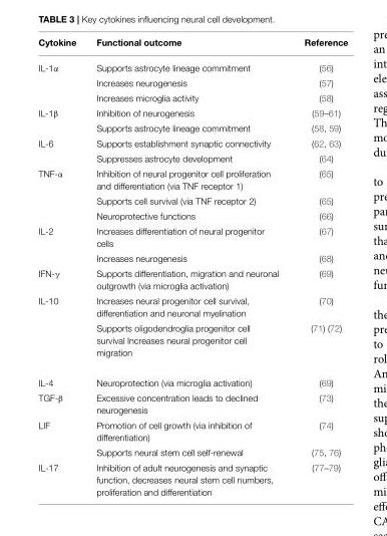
<table><thead><tr><td>Cytokine</td><td>Functional outcome</td><td>Reference</td></tr></thead><tbody><tr><td rowspan="3">IL-1α</td><td>Supports astrocyte lineage commitment</td><td>(56)</td></tr><tr><td>Increases neurogenesis</td><td>(57)</td></tr><tr><td>Increases microglia activity</td><td>(58)</td></tr><tr><td rowspan="2">IL-1β</td><td>Inhibition of neurogenesis</td><td>(59–61)</td></tr><tr><td>Supports astrocyte lineage commitment</td><td>(58, 59)</td></tr><tr><td rowspan="2">IL-6</td><td>Supports establishment synaptic connectivity</td><td>(62, 63)</td></tr><tr><td>Suppresses astrocyte development</td><td>(64)</td></tr><tr><td rowspan="3">TNF-α</td><td>Inhibition of neural progenitor cell proliferation and differentiation (via TNF receptor 1)</td><td>(65)</td></tr><tr><td>Supports cell survival (via TNF receptor 2)</td><td>(65)</td></tr><tr><td>Neuroprotective functions</td><td>(66)</td></tr><tr><td rowspan="2">IL-2</td><td>Increases differentiation of neural progenitor cells</td><td>(67)</td></tr><tr><td>Increases neurogenesis</td><td>(68)</td></tr><tr><td>IFN-γ</td><td>Supports differentiation, migration and neuronal outgrowth (via microglia activation)</td><td>(69)</td></tr><tr><td rowspan="2">IL-10</td><td>Increases neural progenitor cell survival, differentiation and neuronal myelination</td><td>(70)</td></tr><tr><td>Supports oligodendroglia progenitor cell survival Increases neural progenitor cell migration</td><td>(71) (72)</td></tr><tr><td>IL-4</td><td>Neuroprotection (via microglia activation)</td><td>(69)</td></tr><tr><td>TGF-β</td><td>Excessive concentration leads to declined neurogenesis</td><td>(73)</td></tr><tr><td rowspan="2">LIF</td><td>Promotion of cell growth (via inhibition of differentiation)</td><td>(74)</td></tr><tr><td>Supports neural stem cell self-renewal</td><td>(75, 76)</td></tr><tr><td>IL-17</td><td>Inhibition of adult neurogenesis and synaptic function, decreases neural stem cell numbers, proliferation and differentiation</td><td>(77–79)</td></tr></tbody></table>